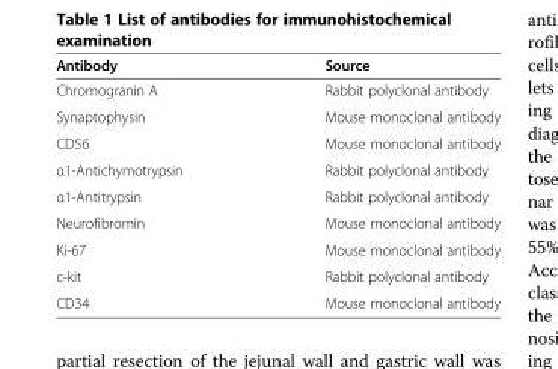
<table><thead><tr><td>Antibody</td><td>Source</td></tr></thead><tbody><tr><td>Chromogranin A</td><td>Rabbit polyclonal antibody</td></tr><tr><td>Synaptophysin</td><td>Mouse monoclonal antibody</td></tr><tr><td>CD56</td><td>Mouse monoclonal antibody</td></tr><tr><td>α1-Antichymotrypsin</td><td>Rabbit polyclonal antibody</td></tr><tr><td>α1-Antitrypsin</td><td>Rabbit polyclonal antibody</td></tr><tr><td>Neurofibromin</td><td>Mouse monoclonal antibody</td></tr><tr><td>Ki-67</td><td>Mouse monoclonal antibody</td></tr><tr><td>c-kit</td><td>Rabbit polyclonal antibody</td></tr><tr><td>CD34</td><td>Mouse monoclonal antibody</td></tr></tbody></table>